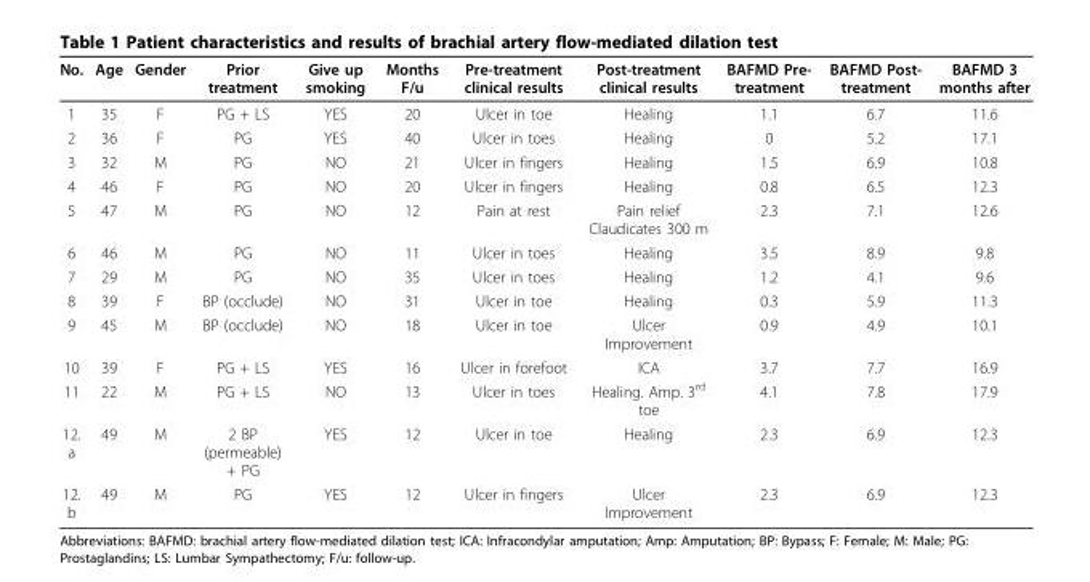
<table><thead><tr><td>No.</td><td>Age</td><td>Gender</td><td>Prior treatment</td><td>Give up smoking</td><td>Months F/u</td><td>Pre-treatment clinical results</td><td>Post-treatment clinical results</td><td>BAFMD Pre- treatment</td><td>BAFMD Post- treatment</td><td>BAFMD 3 months after</td></tr></thead><tbody><tr><td>1</td><td>35</td><td>F</td><td>PG + LS</td><td>YES</td><td>20</td><td>Ulcer in toe</td><td>Healing</td><td>1.1</td><td>6.7</td><td>11.6</td></tr><tr><td>2</td><td>36</td><td>F</td><td>PG</td><td>YES</td><td>40</td><td>Ulcer in toes</td><td>Healing</td><td>0</td><td>5.2</td><td>17.1</td></tr><tr><td>3</td><td>32</td><td>M</td><td>PG</td><td>NO</td><td>21</td><td>Ulcer in fingers</td><td>Healing</td><td>1.5</td><td>6.9</td><td>10.8</td></tr><tr><td>4</td><td>46</td><td>F</td><td>PG</td><td>NO</td><td>20</td><td>Ulcer in fingers</td><td>Healing</td><td>0.8</td><td>6.5</td><td>12.3</td></tr><tr><td>5</td><td>47</td><td>M</td><td>PG</td><td>NO</td><td>12</td><td>Pain at rest</td><td>Pain relief Claudicates 300 m</td><td>2.3</td><td>7.1</td><td>12.6</td></tr><tr><td>6</td><td>46</td><td>M</td><td>PG</td><td>NO</td><td>11</td><td>Ulcer in toes</td><td>Healing</td><td>3.5</td><td>8.9</td><td>9.8</td></tr><tr><td>7</td><td>29</td><td>M</td><td>PG</td><td>NO</td><td>35</td><td>Ulcer in toes</td><td>Healing</td><td>1.2</td><td>4.1</td><td>9.6</td></tr><tr><td>8</td><td>39</td><td>F</td><td>BP (occlude)</td><td>NO</td><td>31</td><td>Ulcer in toe</td><td>Healing</td><td>0.3</td><td>5.9</td><td>11.3</td></tr><tr><td>9</td><td>45</td><td>M</td><td>BP (occlude)</td><td>NO</td><td>18</td><td>Ulcer in toe</td><td>Ulcer Improvement</td><td>0.9</td><td>4.9</td><td>10.1</td></tr><tr><td>10</td><td>39</td><td>F</td><td>PG + LS</td><td>YES</td><td>16</td><td>Ulcer in forefoot</td><td>ICA</td><td>3.7</td><td>7.7</td><td>16.9</td></tr><tr><td>11</td><td>22</td><td>M</td><td>PG + LS</td><td>NO</td><td>13</td><td>Ulcer in toes</td><td>Healing. Amp. 3<sup>rd</sup> toe</td><td>4.1</td><td>7.8</td><td>17.9</td></tr><tr><td>12. a</td><td>49</td><td>M</td><td>2 BP (permeable) + PG</td><td>YES</td><td>12</td><td>Ulcer in toe</td><td>Healing</td><td>2.3</td><td>6.9</td><td>12.3</td></tr><tr><td>12. b</td><td>49</td><td>M</td><td>PG</td><td>YES</td><td>12</td><td>Ulcer in fingers</td><td>Ulcer Improvement</td><td>2.3</td><td>6.9</td><td>12.3</td></tr></tbody></table>